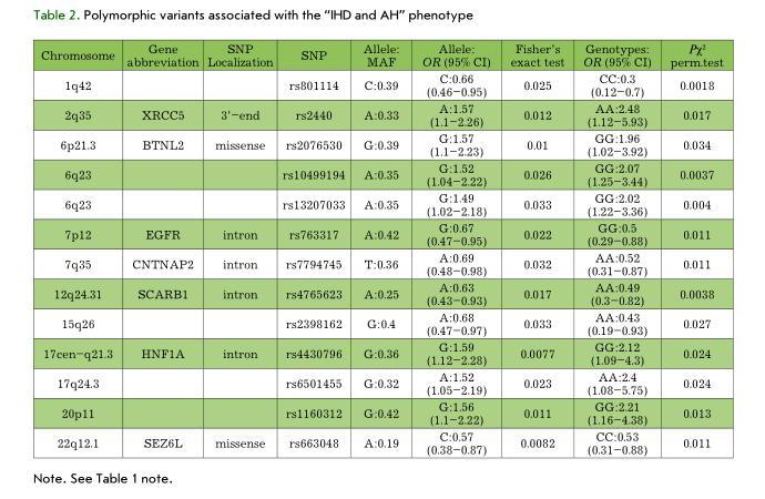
<table><thead><tr><td>Chromosome</td><td>Gene abbreviation</td><td>SNP Localization</td><td>SNP</td><td>Allele: MAF</td><td>Allele: OR (95% CI)</td><td>Fisher’s exact test</td><td>Genotypes: OR (95% CI)</td><td>Pχ<sup>2</sup> perm.test</td></tr></thead><tbody><tr><td>1q42</td><td></td><td></td><td>rs801114</td><td>C:0.39</td><td>C:0.66 (0.46–0.95)</td><td>0.025</td><td>CC:0.3 (0.12–0.7)</td><td>0.0018</td></tr><tr><td>2q35</td><td>XRCC5</td><td>3’–end</td><td>rs2440</td><td>A:0.33</td><td>A:1.57 (1.1–2.26)</td><td>0.012</td><td>AA:2.48 (1.12–5.93)</td><td>0.017</td></tr><tr><td>6p21.3</td><td>BTNL2</td><td>missense</td><td>rs2076530</td><td>G:0.39</td><td>G:1.57 (1.1–2.23)</td><td>0.01</td><td>GG:1.96 (1.02–3.92)</td><td>0.034</td></tr><tr><td>6q23</td><td></td><td></td><td>rs10499194</td><td>A:0.35</td><td>G:1.52 (1.04–2.22)</td><td>0.026</td><td>GG:2.07 (1.25–3.44)</td><td>0.0037</td></tr><tr><td>6q23</td><td></td><td></td><td>rs13207033</td><td>A:0.35</td><td>G:1.49 (1.02–2.18)</td><td>0.033</td><td>GG:2.02 (1.22–3.36)</td><td>0.004</td></tr><tr><td>7p12</td><td>EGFR</td><td>intron</td><td>rs763317</td><td>A:0.42</td><td>G:0.67 (0.47–0.95)</td><td>0.022</td><td>GG:0.5 (0.29–0.88)</td><td>0.011</td></tr><tr><td>7q35</td><td>CNTNAP2</td><td>intron</td><td>rs7794745</td><td>T:0.36</td><td>A:0.69 (0.48–0.98)</td><td>0.032</td><td>AA:0.52 (0.31–0.87)</td><td>0.011</td></tr><tr><td>12q24.31</td><td>SCARB1</td><td>intron</td><td>rs4765623</td><td>A:0.25</td><td>A:0.63 (0.43–0.93)</td><td>0.017</td><td>AA:0.49 (0.3–0.82)</td><td>0.0038</td></tr><tr><td>15q26</td><td></td><td></td><td>rs2398162</td><td>G:0.4</td><td>A:0.68 (0.47–0.97)</td><td>0.033</td><td>AA:0.43 (0.19–0.93)</td><td>0.027</td></tr><tr><td>17cen–q21.3</td><td>HNF1A</td><td>intron</td><td>rs4430796</td><td>G:0.36</td><td>G:1.59 (1.12–2.28)</td><td>0.0077</td><td>GG:2.12 (1.09–4.3)</td><td>0.024</td></tr><tr><td>17q24.3</td><td></td><td></td><td>rs6501455</td><td>G:0.32</td><td>A:1.52 (1.05–2.19)</td><td>0.023</td><td>AA:2.4 (1.08–5.75)</td><td>0.024</td></tr><tr><td>20p11</td><td></td><td></td><td>rs1160312</td><td>G:0.42</td><td>G:1.56 (1.1–2.22)</td><td>0.011</td><td>GG:2.21 (1.16–4.38)</td><td>0.013</td></tr><tr><td>22q12.1</td><td>SEZ6L</td><td>missense</td><td>rs663048</td><td>A:0.19</td><td>C:0.57 (0.38–0.87)</td><td>0.0082</td><td>CC:0.53 (0.31–0.88)</td><td>0.011</td></tr></tbody></table>